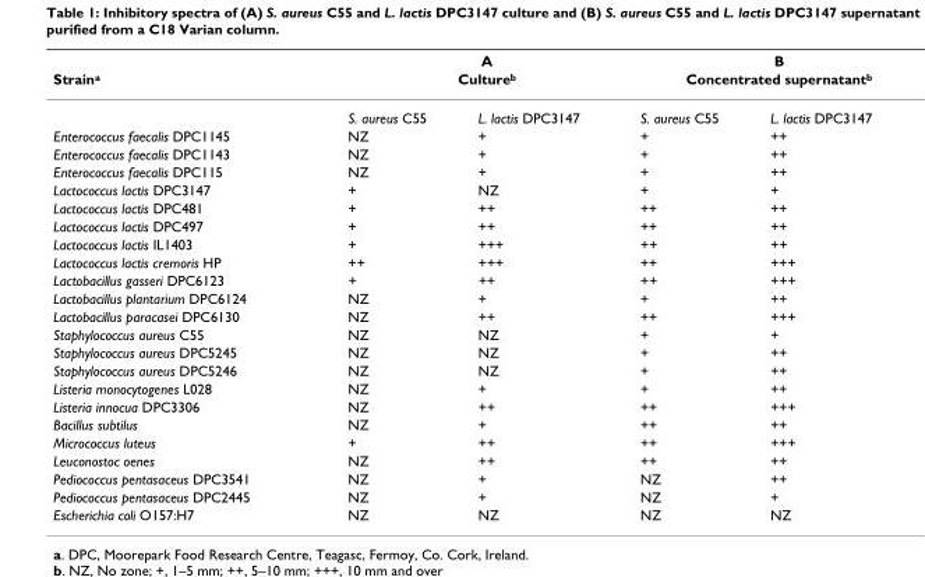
<table><thead><tr><td rowspan="3">Straina</td><td rowspan="2" colspan="2">A Cultureb</td><td rowspan="2" colspan="2">B Concentrated supernatantb</td></tr><tr></tr><tr><td>S. aureus C55</td><td>L. lactis DPC3147</td><td>S. aureus C55</td><td>L. lactis DPC3147</td></tr></thead><tbody><tr><td>Enterococcus faecalis DPC1145</td><td>NZ</td><td>+</td><td>+</td><td>++</td></tr><tr><td>Enterococcus faecalis DPC1143</td><td>NZ</td><td>+</td><td>+</td><td>++</td></tr><tr><td>Enterococcus faecalis DPC115</td><td>NZ</td><td>+</td><td>+</td><td>++</td></tr><tr><td>Lactococcus lactis DPC3147</td><td>+</td><td>NZ</td><td>+</td><td>+</td></tr><tr><td>Lactococcus lactis DPC481</td><td>+</td><td>++</td><td>++</td><td>++</td></tr><tr><td>Lactococcus lactis DPC497</td><td>+</td><td>++</td><td>++</td><td>++</td></tr><tr><td>Lactococcus lactis IL1403</td><td>+</td><td>+++</td><td>++</td><td>++</td></tr><tr><td>Lactococcus lactis cremoris HP</td><td>++</td><td>+++</td><td>++</td><td>+++</td></tr><tr><td>Lactobacillus gasseri DPC6123</td><td>+</td><td>++</td><td>++</td><td>+++</td></tr><tr><td>Lactobacillus plantarium DPC6124</td><td>NZ</td><td>+</td><td>+</td><td>++</td></tr><tr><td>Lactobacillus paracasei DPC6130</td><td>NZ</td><td>++</td><td>++</td><td>+++</td></tr><tr><td>Staphylococcus aureus C55</td><td>NZ</td><td>NZ</td><td>+</td><td>+</td></tr><tr><td>Staphylococcus aureus DPC5245</td><td>NZ</td><td>NZ</td><td>+</td><td>++</td></tr><tr><td>Staphylococcus aureus DPC5246</td><td>NZ</td><td>NZ</td><td>+</td><td>++</td></tr><tr><td>Listeria monocytogenes L028</td><td>NZ</td><td>+</td><td>+</td><td>++</td></tr><tr><td>Listeria innocua DPC3306</td><td>NZ</td><td>++</td><td>++</td><td>+++</td></tr><tr><td>Bacillus subtilus</td><td>NZ</td><td>+</td><td>++</td><td>++</td></tr><tr><td>Micrococcus luteus</td><td>+</td><td>++</td><td>++</td><td>+++</td></tr><tr><td>Leuconostoc oenes</td><td>NZ</td><td>++</td><td>++</td><td>++</td></tr><tr><td>Pediococcus pentasaceus DPC3541</td><td>NZ</td><td>+</td><td>NZ</td><td>++</td></tr><tr><td>Pediococcus pentasaceus DPC2445</td><td>NZ</td><td>+</td><td>NZ</td><td>+</td></tr><tr><td>Escherichia coli O157:H7</td><td>NZ</td><td>NZ</td><td>NZ</td><td>NZ</td></tr></tbody></table>